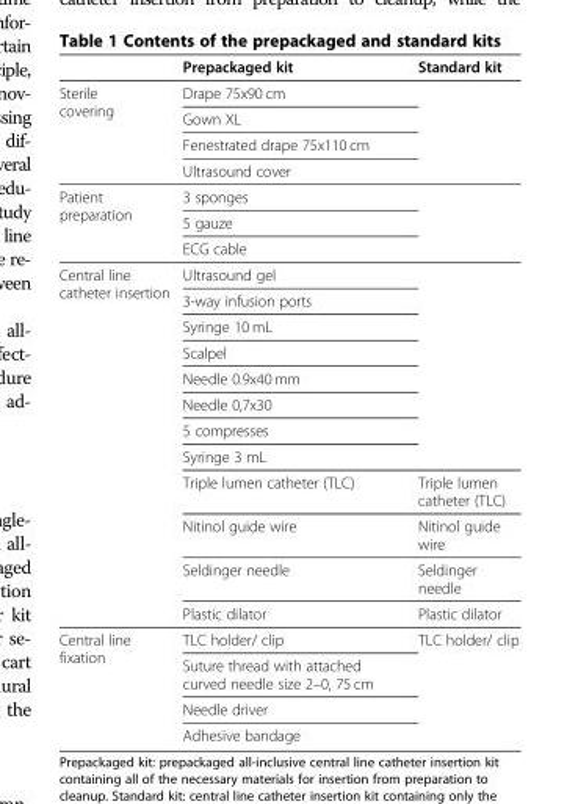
<table><thead><tr><td></td><td>Prepackaged kit</td><td>Standard kit</td></tr></thead><tbody><tr><td rowspan="4">Sterile covering</td><td>Drape 75x90 cm</td><td rowspan="4"></td></tr><tr><td>Gown XL</td></tr><tr><td>Fenestrated drape 75x110 cm</td></tr><tr><td>Ultrasound cover</td></tr><tr><td rowspan="3">Patient preparation</td><td>3 sponges</td><td rowspan="3"></td></tr><tr><td>5 gauze</td></tr><tr><td>ECG cable</td></tr><tr><td rowspan="12">Central line catheter insertion</td><td>Ultrasound gel</td><td rowspan="8"></td></tr><tr><td>3-way infusion ports</td></tr><tr><td>Syringe 10 mL</td></tr><tr><td>Scalpel</td></tr><tr><td>Needle 0.9x40 mm</td></tr><tr><td>Needle 0,7x30</td></tr><tr><td>5 compresses</td></tr><tr><td>Syringe 3 mL</td></tr><tr><td>Triple lumen catheter (TLC)</td><td>Triple lumen catheter (TLC)</td></tr><tr><td>Nitinol guide wire</td><td>Nitinol guide wire</td></tr><tr><td>Seldinger needle</td><td>Seldinger needle</td></tr><tr><td>Plastic dilator</td><td>Plastic dilator</td></tr><tr><td rowspan="4">Central line fixation</td><td>TLC holder/ clip</td><td rowspan="4">TLC holder/ clip</td></tr><tr><td>Suture thread with attached curved needle size 2–0, 75 cm</td></tr><tr><td>Needle driver</td></tr><tr><td>Adhesive bandage</td></tr></tbody></table>